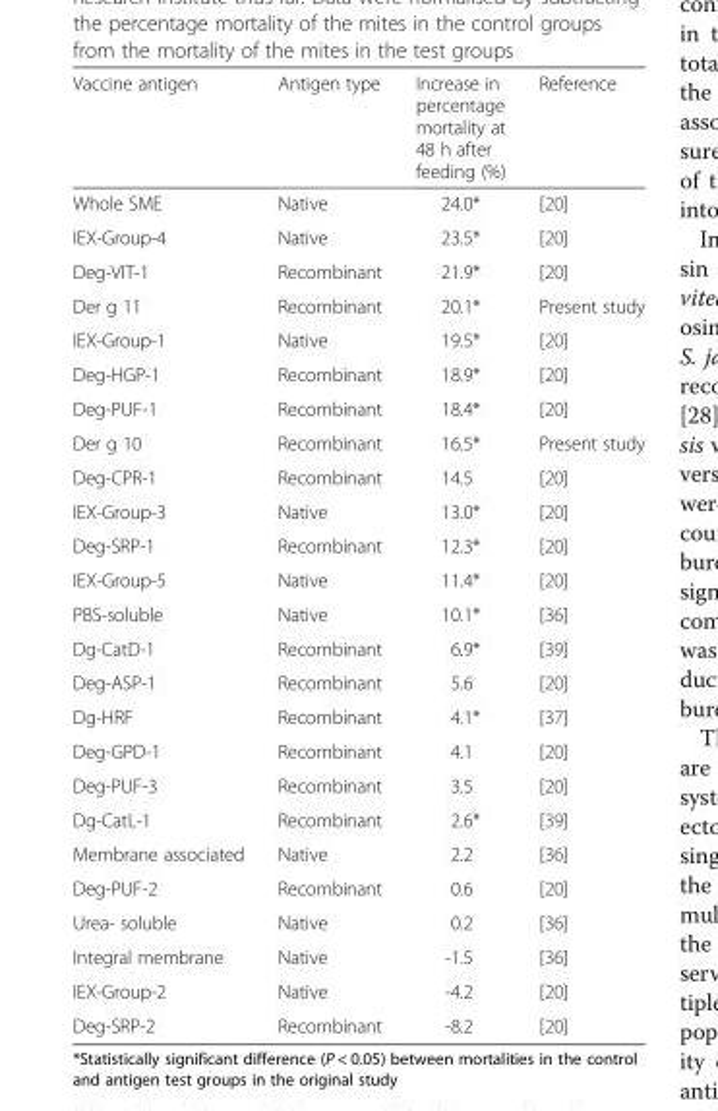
<table><thead><tr><td>Vaccine antigen</td><td>Antigen type</td><td>Increase in percentage mortality at 48 h after feeding (%)</td><td>Reference</td></tr></thead><tbody><tr><td>Whole SME</td><td>Native</td><td>24.0*</td><td>[20]</td></tr><tr><td>IEX-Group-4</td><td>Native</td><td>23.5*</td><td>[20]</td></tr><tr><td>Deg-VIT-1</td><td>Recombinant</td><td>21.9*</td><td>[20]</td></tr><tr><td>Der g 11</td><td>Recombinant</td><td>20.1*</td><td>Present study</td></tr><tr><td>IEX-Group-1</td><td>Native</td><td>19.5*</td><td>[20]</td></tr><tr><td>Deg-HGP-1</td><td>Recombinant</td><td>18.9*</td><td>[20]</td></tr><tr><td>Deg-PUF-1</td><td>Recombinant</td><td>18.4*</td><td>[20]</td></tr><tr><td>Der g 10</td><td>Recombinant</td><td>16.5*</td><td>Present study</td></tr><tr><td>Deg-CPR-1</td><td>Recombinant</td><td>14.5</td><td>[20]</td></tr><tr><td>IEX-Group-3</td><td>Native</td><td>13.0*</td><td>[20]</td></tr><tr><td>Deg-SRP-1</td><td>Recombinant</td><td>12.3*</td><td>[20]</td></tr><tr><td>IEX-Group-5</td><td>Native</td><td>11.4*</td><td>[20]</td></tr><tr><td>PBS-soluble</td><td>Native</td><td>10.1*</td><td>[36]</td></tr><tr><td>Dg-CatD-1</td><td>Recombinant</td><td>6.9*</td><td>[39]</td></tr><tr><td>Deg-ASP-1</td><td>Recombinant</td><td>5.6</td><td>[20]</td></tr><tr><td>Dg-HRF</td><td>Recombinant</td><td>4.1*</td><td>[37]</td></tr><tr><td>Deg-GPD-1</td><td>Recombinant</td><td>4.1</td><td>[20]</td></tr><tr><td>Deg-PUF-3</td><td>Recombinant</td><td>3.5</td><td>[20]</td></tr><tr><td>Dg-CatL-1</td><td>Recombinant</td><td>2.6*</td><td>[39]</td></tr><tr><td>Membrane associated</td><td>Native</td><td>2.2</td><td>[36]</td></tr><tr><td>Deg-PUF-2</td><td>Recombinant</td><td>0.6</td><td>[20]</td></tr><tr><td>Urea- soluble</td><td>Native</td><td>0.2</td><td>[36]</td></tr><tr><td>Integral membrane</td><td>Native</td><td>-1.5</td><td>[36]</td></tr><tr><td>IEX-Group-2</td><td>Native</td><td>-4.2</td><td>[20]</td></tr><tr><td>Deg-SRP-2</td><td>Recombinant</td><td>-8.2</td><td>[20]</td></tr></tbody></table>